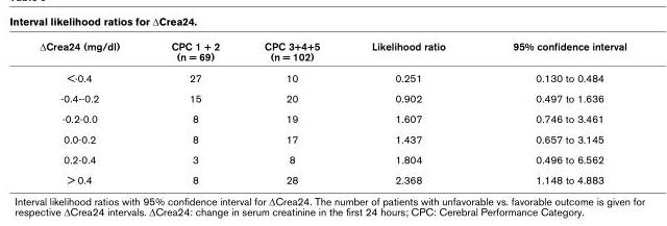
<table><thead><tr><td>ΔCrea24 (mg/dl)</td><td>CPC 1 + 2 (n = 69)</td><td>CPC 3+4+5 (n = 102)</td><td>Likelihood ratio</td><td>95% confidence interval</td></tr></thead><tbody><tr><td>&lt;-0.4</td><td>27</td><td>10</td><td>0.251</td><td>0.130 to 0.484</td></tr><tr><td>-0.4--0.2</td><td>15</td><td>20</td><td>0.902</td><td>0.497 to 1.636</td></tr><tr><td>-0.2-0.0</td><td>8</td><td>19</td><td>1.607</td><td>0.746 to 3.461</td></tr><tr><td>0.0-0.2</td><td>8</td><td>17</td><td>1.437</td><td>0.657 to 3.145</td></tr><tr><td>0.2-0.4</td><td>3</td><td>8</td><td>1.804</td><td>0.496 to 6.562</td></tr><tr><td>&gt; 0.4</td><td>8</td><td>28</td><td>2.368</td><td>1.148 to 4.883</td></tr></tbody></table>